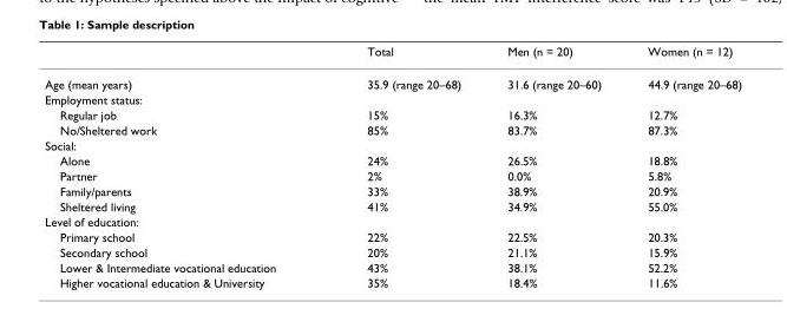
<table><thead><tr><td></td><td>Total</td><td>Men (n = 20)</td><td>Women (n = 12)</td></tr></thead><tbody><tr><td>Age (mean years)</td><td>35.9 (range 20–68)</td><td>31.6 (range 20–60)</td><td>44.9 (range 20–68)</td></tr><tr><td colspan="4">Employment status:</td></tr><tr><td>Regular job</td><td>15%</td><td>16.3%</td><td>12.7%</td></tr><tr><td>No/Sheltered work</td><td>85%</td><td>83.7%</td><td>87.3%</td></tr><tr><td colspan="4">Social:</td></tr><tr><td>Alone</td><td>24%</td><td>26.5%</td><td>18.8%</td></tr><tr><td>Partner</td><td>2%</td><td>0.0%</td><td>5.8%</td></tr><tr><td>Family/parents</td><td>33%</td><td>38.9%</td><td>20.9%</td></tr><tr><td>Sheltered living</td><td>41%</td><td>34.9%</td><td>55.0%</td></tr><tr><td colspan="4">Level of education:</td></tr><tr><td>Primary school</td><td>22%</td><td>22.5%</td><td>20.3%</td></tr><tr><td>Secondary school</td><td>20%</td><td>21.1%</td><td>15.9%</td></tr><tr><td>Lower &amp; Intermediate vocational education</td><td>43%</td><td>38.1%</td><td>52.2%</td></tr><tr><td>Higher vocational education &amp; University</td><td>35%</td><td>18.4%</td><td>11.6%</td></tr></tbody></table>